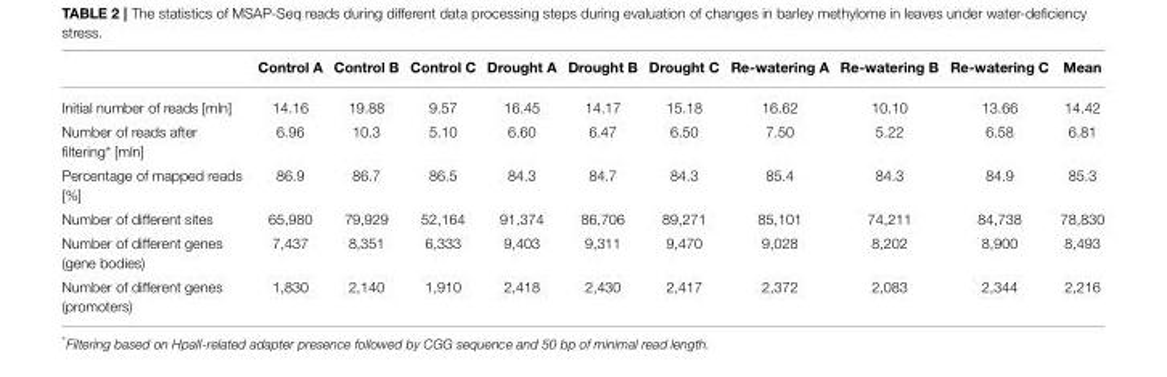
<table><thead><tr><td></td><td>Control A</td><td>Control B</td><td>Control C</td><td>Drought A</td><td>Drought B</td><td>Drought C</td><td>Re-watering A</td><td>Re-watering B</td><td>Re-watering C</td><td>Mean</td></tr></thead><tbody><tr><td>Initial number of reads [mln]</td><td>14.16</td><td>19.88</td><td>9.57</td><td>16.45</td><td>14.17</td><td>15.18</td><td>16.62</td><td>10.10</td><td>13.66</td><td>14.42</td></tr><tr><td>Number of reads after filtering* [mln]</td><td>6.96</td><td>10.3</td><td>5.10</td><td>6.60</td><td>6.47</td><td>6.50</td><td>7.50</td><td>5.22</td><td>6.58</td><td>6.81</td></tr><tr><td>Percentage of mapped reads [%]</td><td>86.9</td><td>86.7</td><td>86.5</td><td>84.3</td><td>84.7</td><td>84.3</td><td>85.4</td><td>84.3</td><td>84.9</td><td>85.3</td></tr><tr><td>Number of different sites</td><td>65,980</td><td>79,929</td><td>52,164</td><td>91,374</td><td>86,706</td><td>89,271</td><td>85,101</td><td>74,211</td><td>84,738</td><td>78,830</td></tr><tr><td>Number of different genes (gene bodies)</td><td>7,437</td><td>8,351</td><td>6,333</td><td>9,403</td><td>9,311</td><td>9,470</td><td>9,028</td><td>8,202</td><td>8,900</td><td>8,493</td></tr><tr><td>Number of different genes (promoters)</td><td>1,830</td><td>2,140</td><td>1,910</td><td>2,418</td><td>2,430</td><td>2,417</td><td>2,372</td><td>2,083</td><td>2,344</td><td>2,216</td></tr></tbody></table>